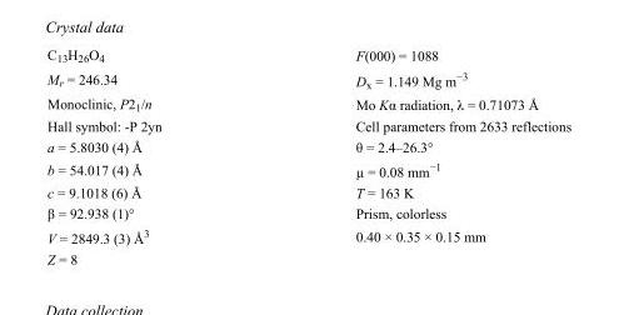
<table><tbody><tr><td>C<sub>13</sub>H<sub>26</sub>O<sub>4</sub></td><td>F(000) = 1088</td></tr><tr><td>M<sub>r</sub> = 246.34</td><td>D<sub>x</sub> = 1.149 Mg m<sup>−3</sup></td></tr><tr><td>Monoclinic, P2<sub>1</sub>/n</td><td>Mo Kα radiation, λ = 0.71073 Å</td></tr><tr><td>Hall symbol: -P 2yn</td><td>Cell parameters from 2633 reflections</td></tr><tr><td>a = 5.8030 (4) Å</td><td>θ = 2.4–26.3°</td></tr><tr><td>b = 54.017 (4) Å</td><td>µ = 0.08 mm<sup>−1</sup></td></tr><tr><td>c = 9.1018 (6) Å</td><td>T = 163 K</td></tr><tr><td>β = 92.938 (1)°</td><td>Prism, colorless</td></tr><tr><td>V = 2849.3 (3) Å<sup>3</sup></td><td>0.40 × 0.35 × 0.15 mm</td></tr><tr><td>Z = 8</td><td></td></tr></tbody></table>